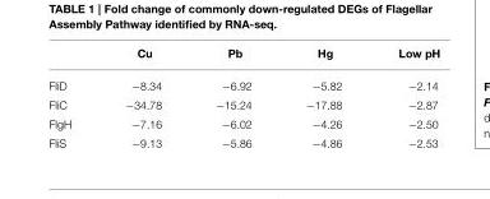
<table><thead><tr><td></td><td>Cu</td><td>Pb</td><td>Hg</td><td>Low pH</td></tr></thead><tbody><tr><td>FliD</td><td>−8.34</td><td>−6.92</td><td>−5.82</td><td>−2.14</td></tr><tr><td>FliC</td><td>−34.78</td><td>−15.24</td><td>−17.88</td><td>−2.87</td></tr><tr><td>FlgH</td><td>−7.16</td><td>−6.02</td><td>−4.26</td><td>−2.50</td></tr><tr><td>FliS</td><td>−9.13</td><td>−5.86</td><td>−4.86</td><td>−2.53</td></tr></tbody></table>